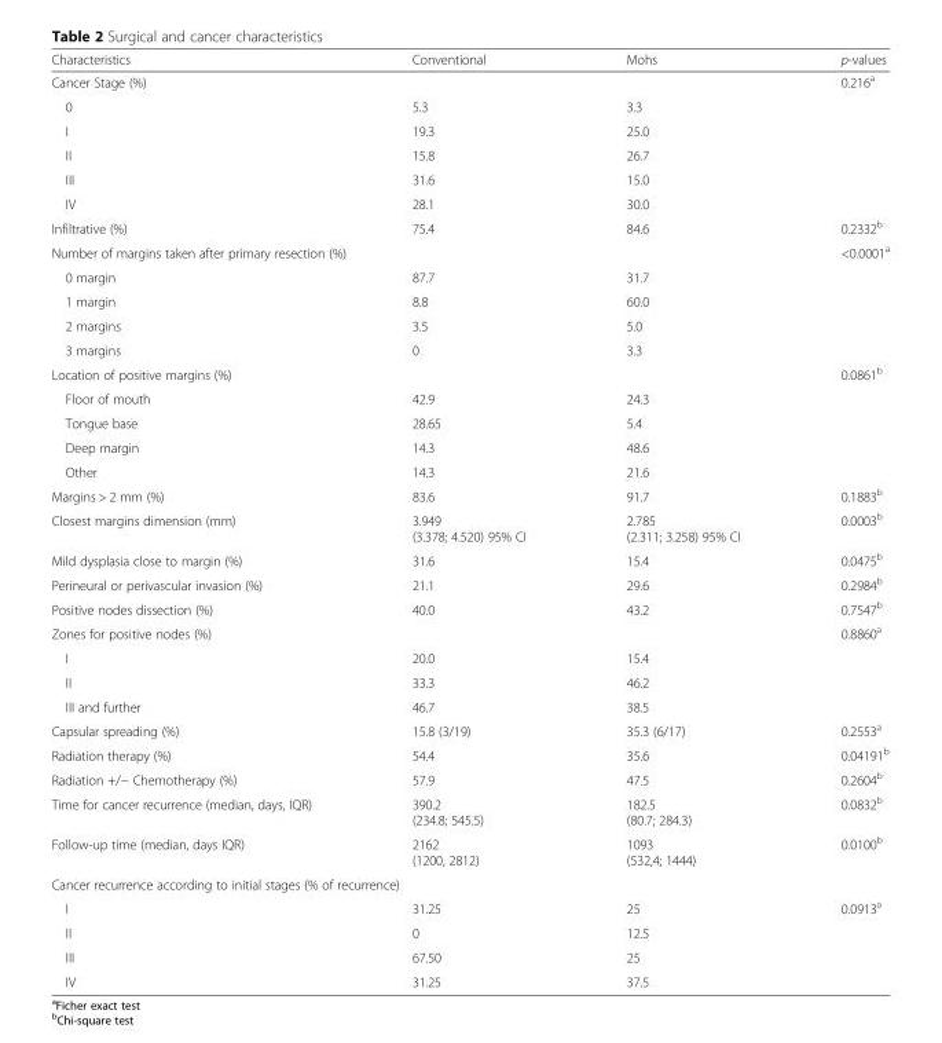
<table><thead><tr><td>Characteristics</td><td>Conventional</td><td>Mohs</td><td>p-values</td></tr></thead><tbody><tr><td colspan="3">Cancer Stage (%)</td><td>0.216<sup>a</sup></td></tr><tr><td>0</td><td>5.3</td><td>3.3</td><td></td></tr><tr><td>I</td><td>19.3</td><td>25.0</td><td></td></tr><tr><td>II</td><td>15.8</td><td>26.7</td><td></td></tr><tr><td>III</td><td>31.6</td><td>15.0</td><td></td></tr><tr><td>IV</td><td>28.1</td><td>30.0</td><td></td></tr><tr><td>Infiltrative (%)</td><td>75.4</td><td>84.6</td><td>0.2332<sup>b</sup></td></tr><tr><td colspan="3">Number of margins taken after primary resection (%)</td><td>&lt;0.0001<sup>a</sup></td></tr><tr><td>0 margin</td><td>87.7</td><td>31.7</td><td></td></tr><tr><td>1 margin</td><td>8.8</td><td>60.0</td><td></td></tr><tr><td>2 margins</td><td>3.5</td><td>5.0</td><td></td></tr><tr><td>3 margins</td><td>0</td><td>3.3</td><td></td></tr><tr><td colspan="3">Location of positive margins (%)</td><td>0.0861<sup>b</sup></td></tr><tr><td>Floor of mouth</td><td>42.9</td><td>24.3</td><td></td></tr><tr><td>Tongue base</td><td>28.65</td><td>5.4</td><td></td></tr><tr><td>Deep margin</td><td>14.3</td><td>48.6</td><td></td></tr><tr><td>Other</td><td>14.3</td><td>21.6</td><td></td></tr><tr><td>Margins &gt; 2 mm (%)</td><td>83.6</td><td>91.7</td><td>0.1883<sup>b</sup></td></tr><tr><td>Closest margins dimension (mm)</td><td>3.949 (3.378; 4.520) 95% CI</td><td>2.785 (2.311; 3.258) 95% CI</td><td>0.0003<sup>b</sup></td></tr><tr><td>Mild dysplasia close to margin (%)</td><td>31.6</td><td>15.4</td><td>0.0475<sup>b</sup></td></tr><tr><td>Perineural or perivascular invasion (%)</td><td>21.1</td><td>29.6</td><td>0.2984<sup>b</sup></td></tr><tr><td>Positive nodes dissection (%)</td><td>40.0</td><td>43.2</td><td>0.7547<sup>b</sup></td></tr><tr><td>Zones for positive nodes (%)</td><td></td><td></td><td>0.8860<sup>a</sup></td></tr><tr><td>I</td><td>20.0</td><td>15.4</td><td></td></tr><tr><td>II</td><td>33.3</td><td>46.2</td><td></td></tr><tr><td>III and further</td><td>46.7</td><td>38.5</td><td></td></tr><tr><td>Capsular spreading (%)</td><td>15.8 (3/19)</td><td>35.3 (6/17)</td><td>0.2553<sup>a</sup></td></tr><tr><td>Radiation therapy (%)</td><td>54.4</td><td>35.6</td><td>0.04191<sup>b</sup></td></tr><tr><td>Radiation +/− Chemotherapy (%)</td><td>57.9</td><td>47.5</td><td>0.2604<sup>b</sup></td></tr><tr><td>Time for cancer recurrence (median, days, IQR)</td><td>390.2 (234.8; 545.5)</td><td>182.5 (80.7; 284.3)</td><td>0.0832<sup>b</sup></td></tr><tr><td>Follow-up time (median, days IQR)</td><td>2162 (1200, 2812)</td><td>1093 (532,4; 1444)</td><td>0.0100<sup>b</sup></td></tr><tr><td colspan="4">Cancer recurrence according to initial stages (% of recurrence)</td></tr><tr><td>I</td><td>31.25</td><td>25</td><td>0.0913<sup>a</sup></td></tr><tr><td>II</td><td>0</td><td>12.5</td><td></td></tr><tr><td>III</td><td>67.50</td><td>25</td><td></td></tr><tr><td>IV</td><td>31.25</td><td>37.5</td><td></td></tr></tbody></table>